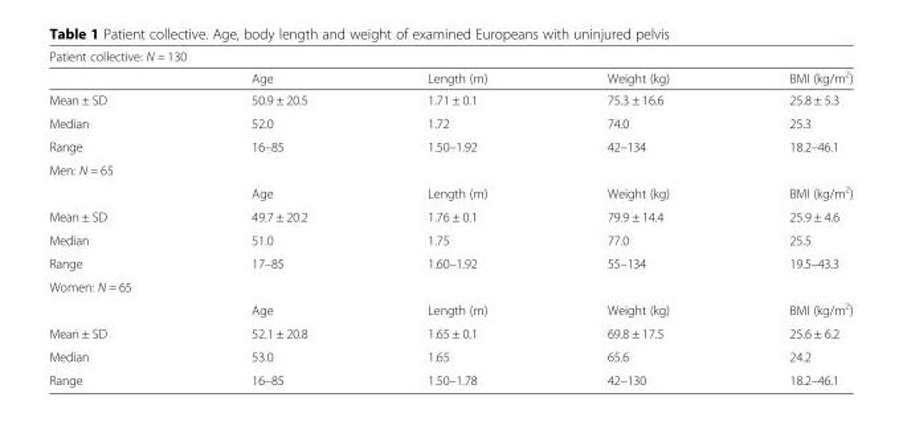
<table><thead><tr><td colspan="5">Patient collective: N = 130</td></tr><tr><td></td><td>Age</td><td>Length (m)</td><td>Weight (kg)</td><td>BMI (kg/m<sup>2</sup>)</td></tr></thead><tbody><tr><td>Mean ± SD</td><td>50.9 ± 20.5</td><td>1.71 ± 0.1</td><td>75.3 ± 16.6</td><td>25.8 ± 5.3</td></tr><tr><td>Median</td><td>52.0</td><td>1.72</td><td>74.0</td><td>25.3</td></tr><tr><td>Range</td><td>16–85</td><td>1.50–1.92</td><td>42–134</td><td>18.2–46.1</td></tr><tr><td colspan="5">Men: N = 65</td></tr><tr><td></td><td>Age</td><td>Length (m)</td><td>Weight (kg)</td><td>BMI (kg/m<sup>2</sup>)</td></tr><tr><td>Mean ± SD</td><td>49.7 ± 20.2</td><td>1.76 ± 0.1</td><td>79.9 ± 14.4</td><td>25.9 ± 4.6</td></tr><tr><td>Median</td><td>51.0</td><td>1.75</td><td>77.0</td><td>25.5</td></tr><tr><td>Range</td><td>17–85</td><td>1.60–1.92</td><td>55–134</td><td>19.5–43.3</td></tr><tr><td colspan="5">Women: N = 65</td></tr><tr><td></td><td>Age</td><td>Length (m)</td><td>Weight (kg)</td><td>BMI (kg/m<sup>2</sup>)</td></tr><tr><td>Mean ± SD</td><td>52.1 ± 20.8</td><td>1.65 ± 0.1</td><td>69.8 ± 17.5</td><td>25.6 ± 6.2</td></tr><tr><td>Median</td><td>53.0</td><td>1.65</td><td>65.6</td><td>24.2</td></tr><tr><td>Range</td><td>16–85</td><td>1.50–1.78</td><td>42–130</td><td>18.2–46.1</td></tr></tbody></table>